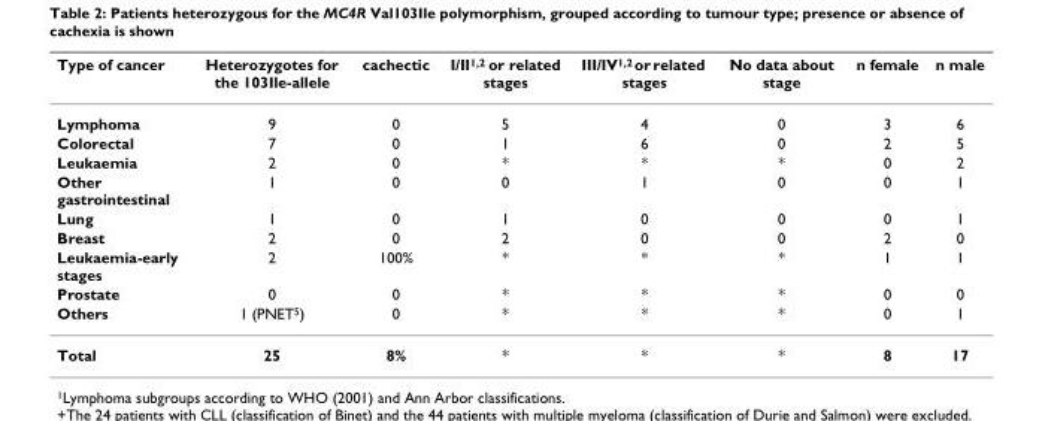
<table><thead><tr><td>Type of cancer</td><td>Heterozygotes for the 103Ile-allele</td><td>cachectic</td><td>I/II<sup>1,2</sup> or related stages</td><td>III/IV<sup>1,2</sup> or related stages</td><td>No data about stage</td><td>n female</td><td>n male</td></tr></thead><tbody><tr><td>Lymphoma</td><td>9</td><td>0</td><td>5</td><td>4</td><td>0</td><td>3</td><td>6</td></tr><tr><td>Colorectal</td><td>7</td><td>0</td><td>1</td><td>6</td><td>0</td><td>2</td><td>5</td></tr><tr><td>Leukaemia</td><td>2</td><td>0</td><td>*</td><td>*</td><td>*</td><td>0</td><td>2</td></tr><tr><td>Other gastrointestinal</td><td>1</td><td>0</td><td>0</td><td>1</td><td>0</td><td>0</td><td>1</td></tr><tr><td>Lung</td><td>1</td><td>0</td><td>1</td><td>0</td><td>0</td><td>0</td><td>1</td></tr><tr><td>Breast</td><td>2</td><td>0</td><td>2</td><td>0</td><td>0</td><td>2</td><td>0</td></tr><tr><td>Leukaemia-early stages</td><td>2</td><td>100%</td><td>*</td><td>*</td><td>*</td><td>1</td><td>1</td></tr><tr><td>Prostate</td><td>0</td><td>0</td><td>*</td><td>*</td><td>*</td><td>0</td><td>0</td></tr><tr><td>Others</td><td>1 (PNET<sup>5</sup>)</td><td>0</td><td>*</td><td>*</td><td>*</td><td>0</td><td>1</td></tr><tr><td>Total</td><td>25</td><td>8%</td><td>*</td><td>*</td><td>*</td><td>8</td><td>17</td></tr></tbody></table>